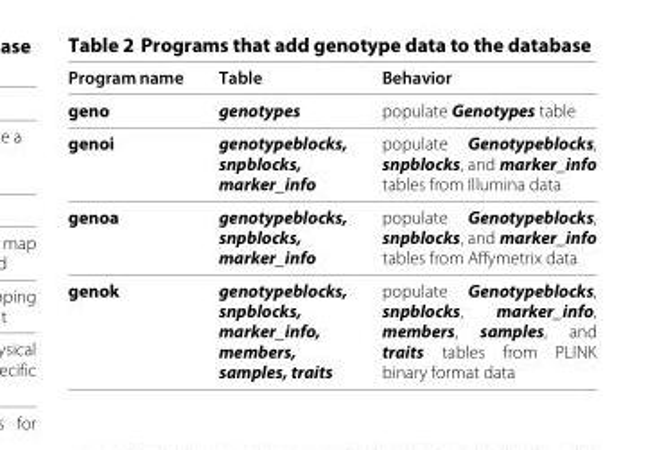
<table><thead><tr><td>Program name</td><td>Table</td><td>Behavior</td></tr></thead><tbody><tr><td>geno</td><td>genotypes</td><td>populate Genotypes table</td></tr><tr><td>genoi</td><td>genotypeblocks, snpblocks, marker_info</td><td>populate Genotypeblocks, snpblocks, and marker_info tables from Illumina data</td></tr><tr><td>genoa</td><td>genotypeblocks, snpblocks, marker_info</td><td>populate Genotypeblocks, snpblocks, and marker_info tables from Affymetrix data</td></tr><tr><td>genok</td><td>genotypeblocks, snpblocks, marker_info, members, samples, traits</td><td>populate Genotypeblocks, snpblocks, marker_info, members, samples, and traits tables from PLINK binary format data</td></tr></tbody></table>